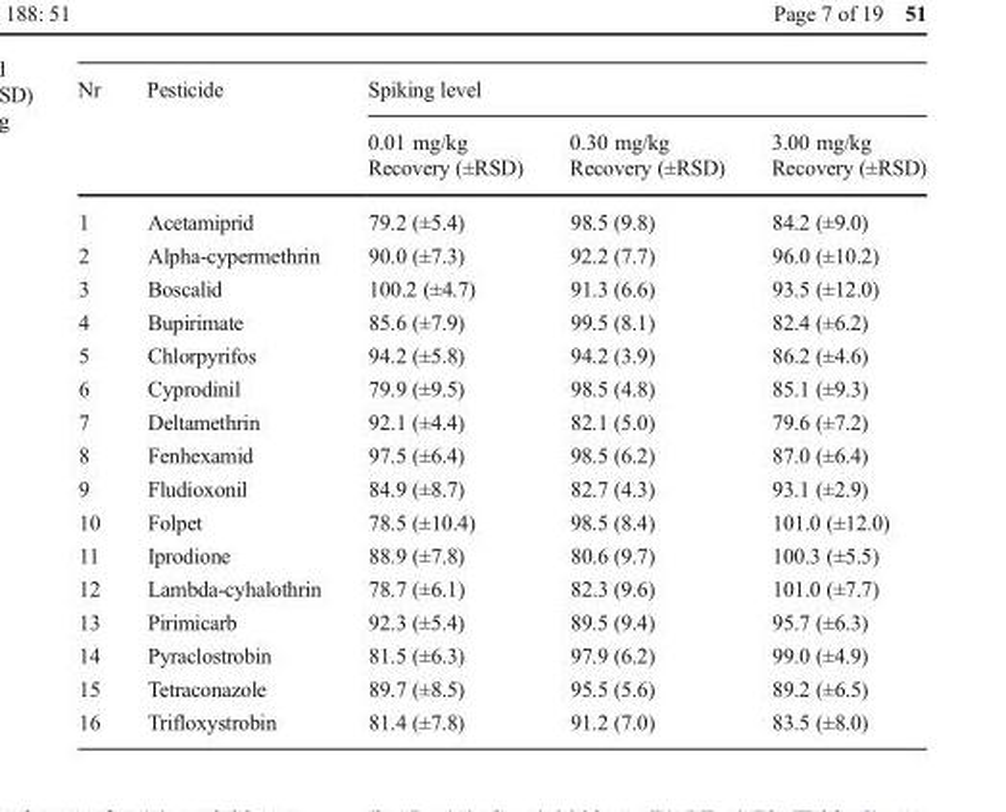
<table><thead><tr><td rowspan="3">Nr</td><td rowspan="3">Pesticide</td><td colspan="3">Spiking level</td></tr><tr><td rowspan="2">0.01 mg/kg Recovery (±RSD)</td><td rowspan="2">0.30 mg/kg Recovery (±RSD)</td><td rowspan="2">3.00 mg/kg Recovery (±RSD)</td></tr><tr></tr></thead><tbody><tr><td>1</td><td>Acetamiprid</td><td>79.2 (±5.4)</td><td>98.5 (9.8)</td><td>84.2 (±9.0)</td></tr><tr><td>2</td><td>Alpha-cypermethrin</td><td>90.0 (±7.3)</td><td>92.2 (7.7)</td><td>96.0 (±10.2)</td></tr><tr><td>3</td><td>Boscalid</td><td>100.2 (±4.7)</td><td>91.3 (6.6)</td><td>93.5 (±12.0)</td></tr><tr><td>4</td><td>Bupirimate</td><td>85.6 (±7.9)</td><td>99.5 (8.1)</td><td>82.4 (±6.2)</td></tr><tr><td>5</td><td>Chlorpyrifos</td><td>94.2 (±5.8)</td><td>94.2 (3.9)</td><td>86.2 (±4.6)</td></tr><tr><td>6</td><td>Cyprodinil</td><td>79.9 (±9.5)</td><td>98.5 (4.8)</td><td>85.1 (±9.3)</td></tr><tr><td>7</td><td>Deltamethrin</td><td>92.1 (±4.4)</td><td>82.1 (5.0)</td><td>79.6 (±7.2)</td></tr><tr><td>8</td><td>Fenhexamid</td><td>97.5 (±6.4)</td><td>98.5 (6.2)</td><td>87.0 (±6.4)</td></tr><tr><td>9</td><td>Fludioxonil</td><td>84.9 (±8.7)</td><td>82.7 (4.3)</td><td>93.1 (±2.9)</td></tr><tr><td>10</td><td>Folpet</td><td>78.5 (±10.4)</td><td>98.5 (8.4)</td><td>101.0 (±12.0)</td></tr><tr><td>11</td><td>Iprodione</td><td>88.9 (±7.8)</td><td>80.6 (9.7)</td><td>100.3 (±5.5)</td></tr><tr><td>12</td><td>Lambda-cyhalothrin</td><td>78.7 (±6.1)</td><td>82.3 (9.6)</td><td>101.0 (±7.7)</td></tr><tr><td>13</td><td>Pirimicarb</td><td>92.3 (±5.4)</td><td>89.5 (9.4)</td><td>95.7 (±6.3)</td></tr><tr><td>14</td><td>Pyraclostrobin</td><td>81.5 (±6.3)</td><td>97.9 (6.2)</td><td>99.0 (±4.9)</td></tr><tr><td>15</td><td>Tetraconazole</td><td>89.7 (±8.5)</td><td>95.5 (5.6)</td><td>89.2 (±6.5)</td></tr><tr><td>16</td><td>Trifloxystrobin</td><td>81.4 (±7.8)</td><td>91.2 (7.0)</td><td>83.5 (±8.0)</td></tr></tbody></table>